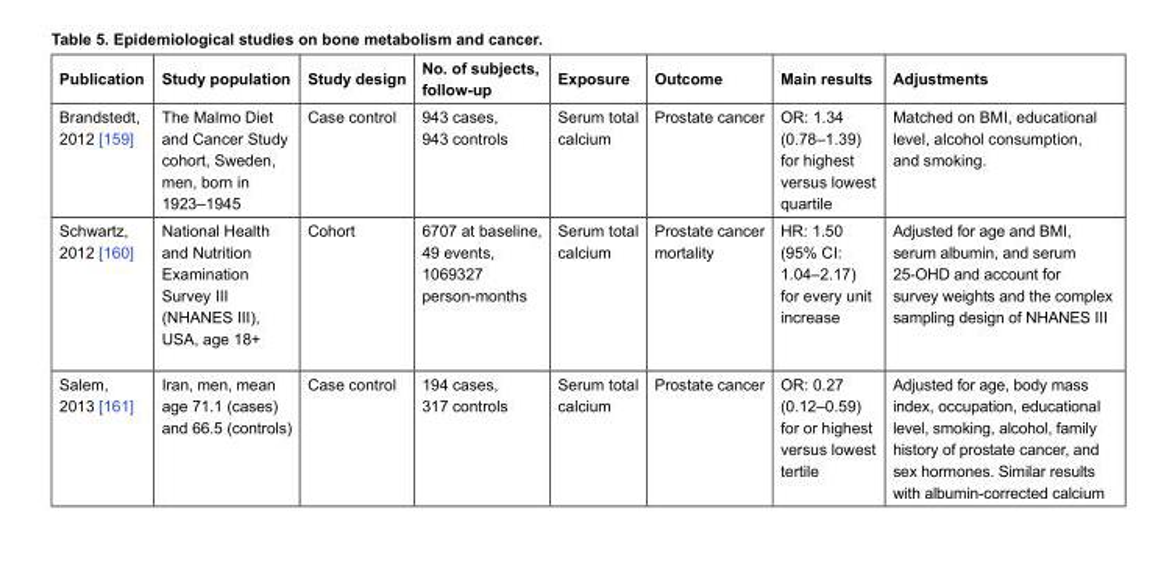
<table><thead><tr><td>Publication</td><td>Study population</td><td>Study design</td><td>No. of subjects, follow-up</td><td>Exposure</td><td>Outcome</td><td>Main results</td><td>Adjustments</td></tr></thead><tbody><tr><td>Brandstedt, 2012 [159]</td><td>The Malmo Diet and Cancer Study cohort, Sweden, men, born in 1923–1945</td><td>Case control</td><td>943 cases, 943 controls</td><td>Serum total calcium</td><td>Prostate cancer</td><td>OR: 1.34 (0.78–1.39) for highest versus lowest quartile</td><td>Matched on BMI, educational level, alcohol consumption, and smoking.</td></tr><tr><td>Schwartz, 2012 [160]</td><td>National Health and Nutrition Examination Survey III (NHANES III), USA, age 18+</td><td>Cohort</td><td>6707 at baseline, 49 events, 1069327 person-months</td><td>Serum total calcium</td><td>Prostate cancer mortality</td><td>HR: 1.50 (95% CI: 1.04–2.17) for every unit increase</td><td>Adjusted for age and BMI, serum albumin, and serum 25-OHD and account for survey weights and the complex sampling design of NHANES III</td></tr><tr><td>Salem, 2013 [161]</td><td>Iran, men, mean age 71.1 (cases) and 66.5 (controls)</td><td>Case control</td><td>194 cases, 317 controls</td><td>Serum total calcium</td><td>Prostate cancer</td><td>OR: 0.27 (0.12–0.59) for or highest versus lowest tertile</td><td>Adjusted for age, body mass index, occupation, educational level, smoking, alcohol, family history of prostate cancer, and sex hormones. Similar results with albumin-corrected calcium</td></tr></tbody></table>